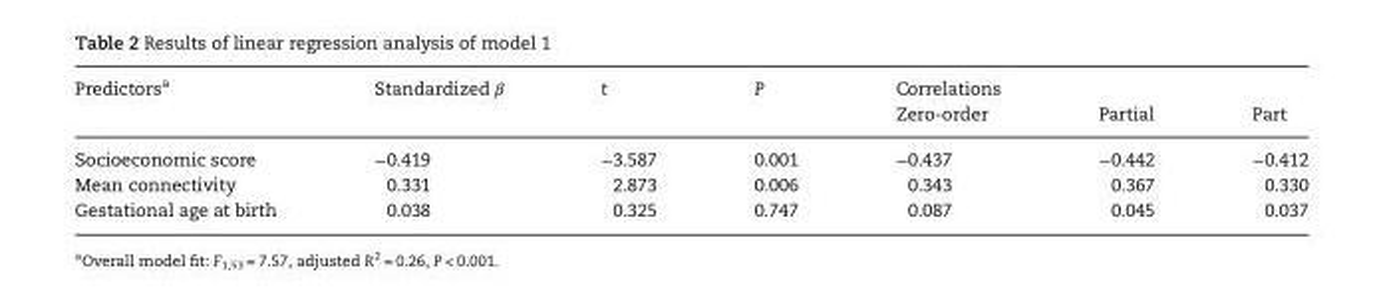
<table><thead><tr><td rowspan="2">Predictors<sup>a</sup></td><td rowspan="2">Standardized β</td><td rowspan="2">t</td><td rowspan="2">P</td><td rowspan="2">Correlations Zero-order</td><td rowspan="2">Partial</td><td rowspan="2">Part</td></tr><tr></tr></thead><tbody><tr><td>Socioeconomic score</td><td>−0.419</td><td>−3.587</td><td>0.001</td><td>−0.437</td><td>−0.442</td><td>−0.412</td></tr><tr><td>Mean connectivity</td><td>0.331</td><td>2.873</td><td>0.006</td><td>0.343</td><td>0.367</td><td>0.330</td></tr><tr><td>Gestational age at birth</td><td>0.038</td><td>0.325</td><td>0.747</td><td>0.087</td><td>0.045</td><td>0.037</td></tr></tbody></table>